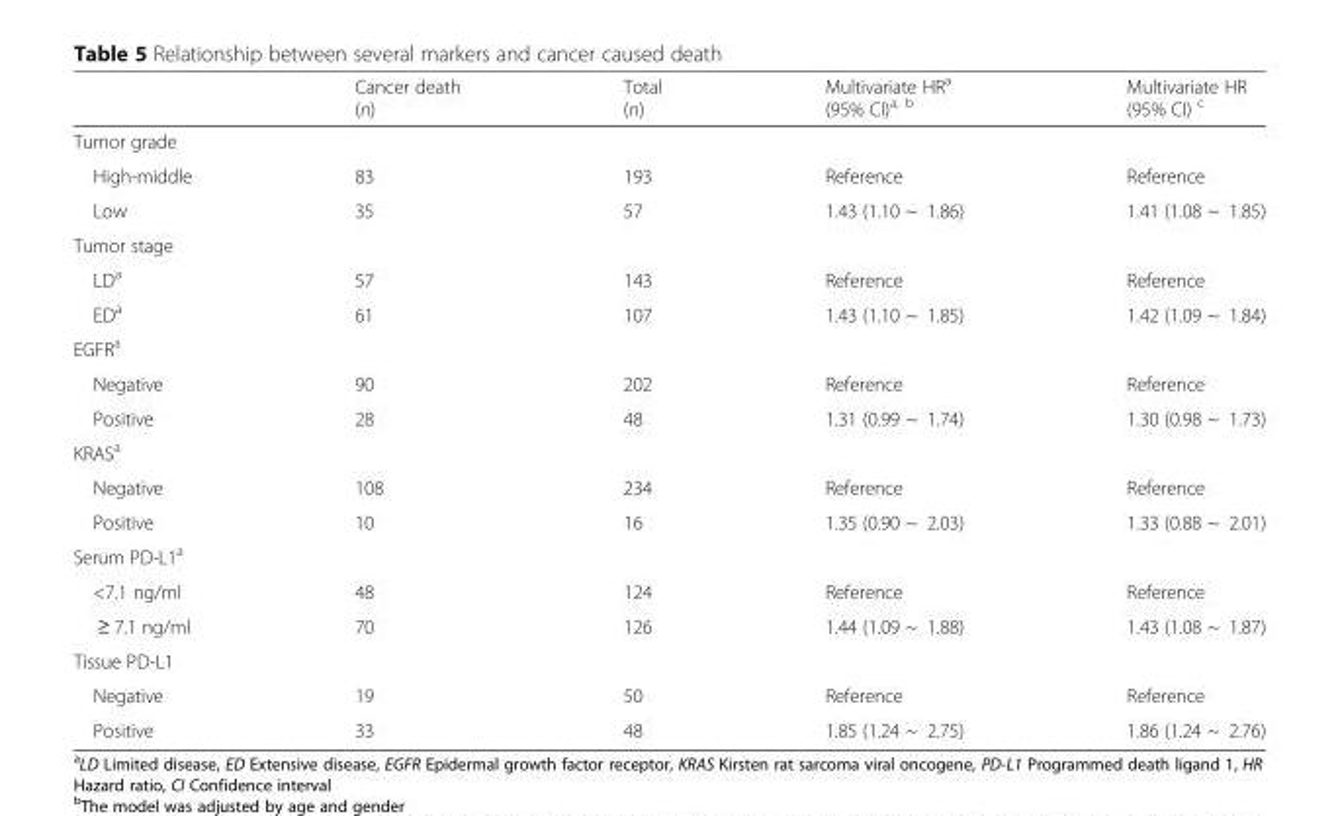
<table><thead><tr><td></td><td>Cancer death (n)</td><td>Total (n)</td><td>Multivariate HR<sup>a</sup> (95% CI)<sup>a, b</sup></td><td>Multivariate HR (95% CI) <sup>c</sup></td></tr></thead><tbody><tr><td colspan="5">Tumor grade</td></tr><tr><td>High-middle</td><td>83</td><td>193</td><td>Reference</td><td>Reference</td></tr><tr><td>Low</td><td>35</td><td>57</td><td>1.43 (1.10 ~ 1.86)</td><td>1.41 (1.08 ~ 1.85)</td></tr><tr><td colspan="5">Tumor stage</td></tr><tr><td>LD<sup>a</sup></td><td>57</td><td>143</td><td>Reference</td><td>Reference</td></tr><tr><td>ED<sup>a</sup></td><td>61</td><td>107</td><td>1.43 (1.10 ~ 1.85)</td><td>1.42 (1.09 ~ 1.84)</td></tr><tr><td colspan="5">EGFR<sup>a</sup></td></tr><tr><td>Negative</td><td>90</td><td>202</td><td>Reference</td><td>Reference</td></tr><tr><td>Positive</td><td>28</td><td>48</td><td>1.31 (0.99 ~ 1.74)</td><td>1.30 (0.98 ~ 1.73)</td></tr><tr><td colspan="5">KRAS<sup>a</sup></td></tr><tr><td>Negative</td><td>108</td><td>234</td><td>Reference</td><td>Reference</td></tr><tr><td>Positive</td><td>10</td><td>16</td><td>1.35 (0.90 ~ 2.03)</td><td>1.33 (0.88 ~ 2.01)</td></tr><tr><td colspan="5">Serum PD-L1<sup>a</sup></td></tr><tr><td>&lt;7.1 ng/ml</td><td>48</td><td>124</td><td>Reference</td><td>Reference</td></tr><tr><td>≥ 7.1 ng/ml</td><td>70</td><td>126</td><td>1.44 (1.09 ~ 1.88)</td><td>1.43 (1.08 ~ 1.87)</td></tr><tr><td colspan="5">Tissue PD-L1</td></tr><tr><td>Negative</td><td>19</td><td>50</td><td>Reference</td><td>Reference</td></tr><tr><td>Positive</td><td>33</td><td>48</td><td>1.85 (1.24 ~ 2.75)</td><td>1.86 (1.24 ~ 2.76)</td></tr></tbody></table>